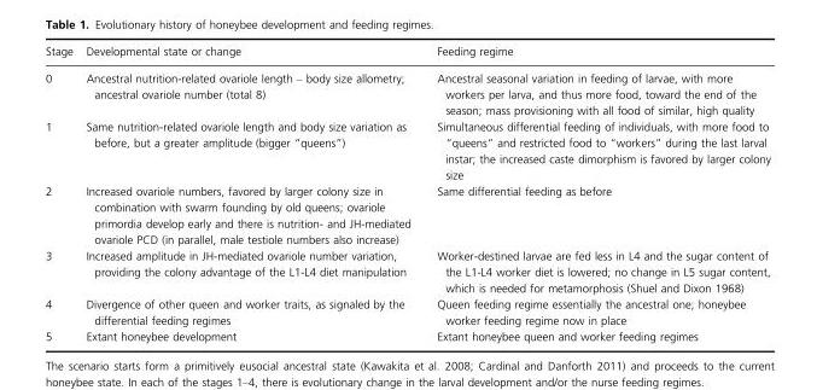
<table><thead><tr><td>Stage</td><td>Developmental state or change</td><td>Feeding regime</td></tr></thead><tbody><tr><td>0</td><td>Ancestral nutrition-related ovariole length – body size allometry; ancestral ovariole number (total 8)</td><td>Ancestral seasonal variation in feeding of larvae, with more workers per larva, and thus more food, toward the end of the season; mass provisioning with all food of similar, high quality</td></tr><tr><td>1</td><td>Same nutrition-related ovariole length and body size variation as before, but a greater amplitude (bigger “queens”)</td><td>Simultaneous differential feeding of individuals, with more food to “queens” and restricted food to “workers” during the last larval instar; the increased caste dimorphism is favored by larger colony size</td></tr><tr><td>2</td><td>Increased ovariole numbers, favored by larger colony size in combination with swarm founding by old queens; ovariole primordia develop early and there is nutrition- and JH-mediated ovariole PCD (in parallel, male testiole numbers also increase)</td><td>Same differential feeding as before</td></tr><tr><td>3</td><td>Increased amplitude in JH-mediated ovariole number variation, providing the colony advantage of the L1-L4 diet manipulation</td><td>Worker-destined larvae are fed less in L4 and the sugar content of the L1-L4 worker diet is lowered; no change in L5 sugar content, which is needed for metamorphosis (Shuel and Dixon 1968)</td></tr><tr><td>4</td><td>Divergence of other queen and worker traits, as signaled by the differential feeding regimes</td><td>Queen feeding regime essentially the ancestral one; honeybee worker feeding regime now in place</td></tr><tr><td>5</td><td>Extant honeybee development</td><td>Extant honeybee queen and worker feeding regimes</td></tr></tbody></table>